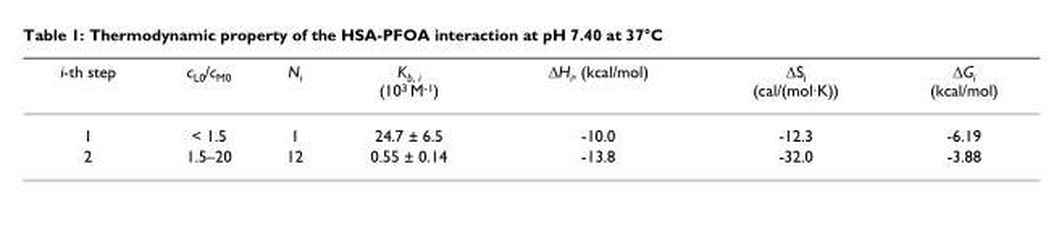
<table><thead><tr><td>i-th step</td><td>c<sub>L0</sub>/c<sub>M0</sub></td><td>N<sub>i</sub></td><td>K<sub>b, i</sub> (10<sup>3</sup> M<sup>-1</sup>)</td><td>ΔH<sub>i</sub>, (kcal/mol)</td><td>ΔS<sub>i</sub> (cal/(mol·K))</td><td>ΔG<sub>i</sub> (kcal/mol)</td></tr></thead><tbody><tr><td>1</td><td>&lt; 1.5</td><td>1</td><td>24.7 ± 6.5</td><td>-10.0</td><td>-12.3</td><td>-6.19</td></tr><tr><td>2</td><td>1.5–20</td><td>12</td><td>0.55 ± 0.14</td><td>-13.8</td><td>-32.0</td><td>-3.88</td></tr></tbody></table>